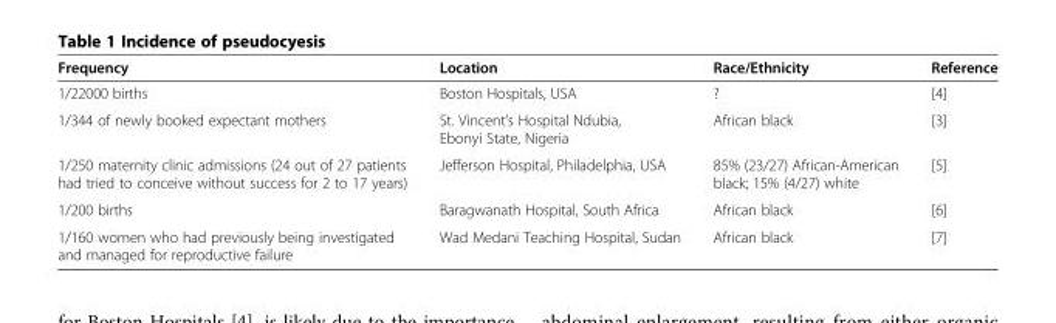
<table><thead><tr><td>Frequency</td><td>Location</td><td>Race/Ethnicity</td><td>Reference</td></tr></thead><tbody><tr><td>1/22000 births</td><td>Boston Hospitals, USA</td><td>?</td><td>[4]</td></tr><tr><td>1/344 of newly booked expectant mothers</td><td>St. Vincent’s Hospital Ndubia, Ebonyi State, Nigeria</td><td>African black</td><td>[3]</td></tr><tr><td>1/250 maternity clinic admissions (24 out of 27 patients had tried to conceive without success for 2 to 17 years)</td><td>Jefferson Hospital, Philadelphia, USA</td><td>85% (23/27) African-American black; 15% (4/27) white</td><td>[5]</td></tr><tr><td>1/200 births</td><td>Baragwanath Hospital, South Africa</td><td>African black</td><td>[6]</td></tr><tr><td>1/160 women who had previously being investigated and managed for reproductive failure</td><td>Wad Medani Teaching Hospital, Sudan</td><td>African black</td><td>[7]</td></tr></tbody></table>